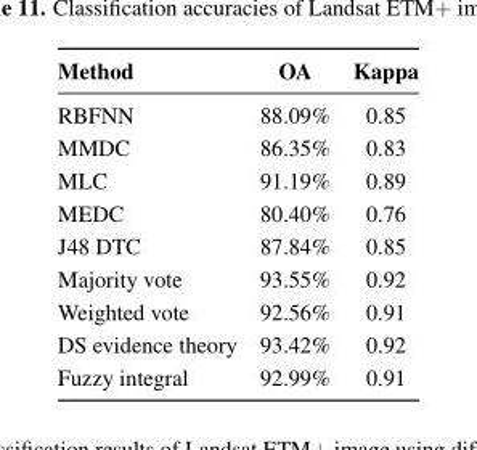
<table><thead><tr><td>Method</td><td>OA</td><td>Kappa</td></tr></thead><tbody><tr><td>RBFNN</td><td>88.09%</td><td>0.85</td></tr><tr><td>MMDC</td><td>86.35%</td><td>0.83</td></tr><tr><td>MLC</td><td>91.19%</td><td>0.89</td></tr><tr><td>MEDC</td><td>80.40%</td><td>0.76</td></tr><tr><td>J48 DTC</td><td>87.84%</td><td>0.85</td></tr><tr><td>Majority vote</td><td>93.55%</td><td>0.92</td></tr><tr><td>Weighted vote</td><td>92.56%</td><td>0.91</td></tr><tr><td>DS evidence theory</td><td>93.42%</td><td>0.92</td></tr><tr><td>Fuzzy integral</td><td>92.99%</td><td>0.91</td></tr></tbody></table>